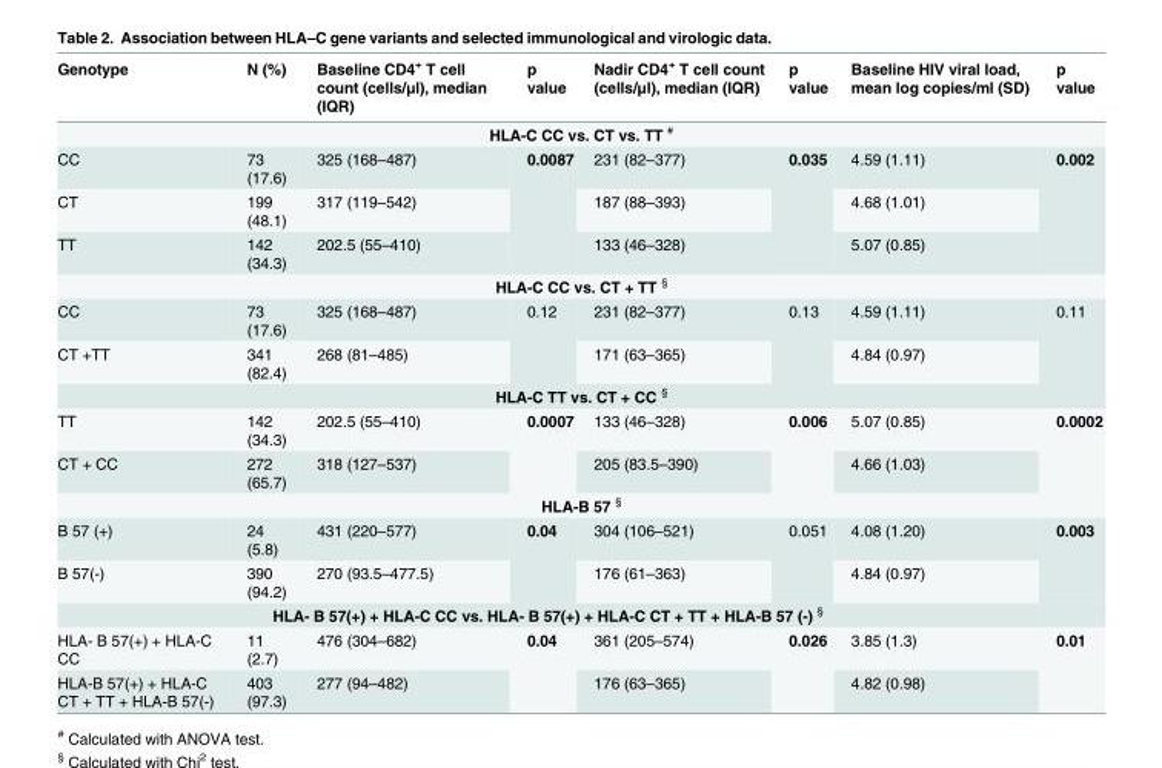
<table><thead><tr><td>Genotype</td><td>N (%)</td><td>Baseline CD4<sup>+</sup> T cell count (cells/μl), median (IQR)</td><td>p value</td><td>Nadir CD4<sup>+</sup> T cell count (cells/μl), median (IQR)</td><td>p value</td><td>Baseline HIV viral load, mean log copies/ml (SD)</td><td>p value</td></tr></thead><tbody><tr><td colspan="8">HLA-C CC vs. CT vs. TT <sup>#</sup></td></tr><tr><td>CC</td><td>73 (17.6)</td><td>325 (168–487)</td><td rowspan="3">0.0087</td><td>231 (82–377)</td><td rowspan="3">0.035</td><td>4.59 (1.11)</td><td rowspan="3">0.002</td></tr><tr><td>CT</td><td>199 (48.1)</td><td>317 (119–542)</td><td>187 (88–393)</td><td>4.68 (1.01)</td></tr><tr><td>TT</td><td>142 (34.3)</td><td>202.5 (55–410)</td><td>133 (46–328)</td><td>5.07 (0.85)</td></tr><tr><td colspan="8">HLA-C CC vs. CT + TT <sup>§</sup></td></tr><tr><td>CC</td><td>73 (17.6)</td><td>325 (168–487)</td><td rowspan="2">0.12</td><td>231 (82–377)</td><td rowspan="2">0.13</td><td>4.59 (1.11)</td><td rowspan="2">0.11</td></tr><tr><td>CT +TT</td><td>341 (82.4)</td><td>268 (81–485)</td><td>171 (63–365)</td><td>4.84 (0.97)</td></tr><tr><td colspan="8">HLA-C TT vs. CT + CC <sup>§</sup></td></tr><tr><td>TT</td><td>142 (34.3)</td><td>202.5 (55–410)</td><td rowspan="2">0.0007</td><td>133 (46–328)</td><td rowspan="2">0.006</td><td>5.07 (0.85)</td><td rowspan="2">0.0002</td></tr><tr><td>CT + CC</td><td>272 (65.7)</td><td>318 (127–537)</td><td>205 (83.5–390)</td><td>4.66 (1.03)</td></tr><tr><td colspan="8">HLA-B 57 <sup>§</sup></td></tr><tr><td>B 57 (+)</td><td>24 (5.8)</td><td>431 (220–577)</td><td rowspan="2">0.04</td><td>304 (106–521)</td><td rowspan="2">0.051</td><td>4.08 (1.20)</td><td rowspan="2">0.003</td></tr><tr><td>B 57(-)</td><td>390 (94.2)</td><td>270 (93.5–477.5)</td><td>176 (61–363)</td><td>4.84 (0.97)</td></tr><tr><td colspan="8">HLA- B 57(+) + HLA-C CC vs. HLA- B 57(+) + HLA-C CT + TT + HLA-B 57 (-) <sup>§</sup></td></tr><tr><td>HLA- B 57(+) + HLA-C CC</td><td>11 (2.7)</td><td>476 (304–682)</td><td rowspan="2">0.04</td><td>361 (205–574)</td><td rowspan="2">0.026</td><td>3.85 (1.3)</td><td rowspan="2">0.01</td></tr><tr><td>HLA-B 57(+) + HLA-C CT + TT + HLA-B 57(-)</td><td>403 (97.3)</td><td>277 (94–482)</td><td>176 (63–365)</td><td>4.82 (0.98)</td></tr></tbody></table>